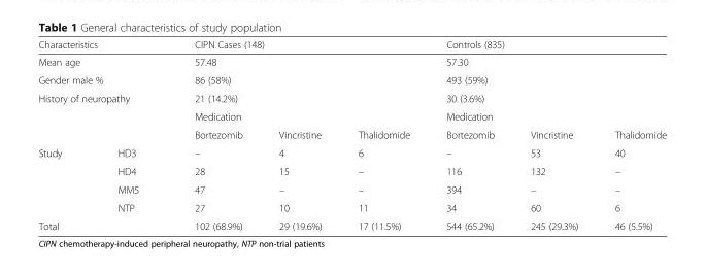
<table><thead><tr><td colspan="2">Characteristics</td><td colspan="3">CIPN Cases (148)</td><td colspan="3">Controls (835)</td></tr></thead><tbody><tr><td colspan="2">Mean age</td><td colspan="3">57.48</td><td colspan="3">57.30</td></tr><tr><td colspan="2">Gender male %</td><td colspan="3">86 (58%)</td><td colspan="3">493 (59%)</td></tr><tr><td rowspan="3" colspan="2">History of neuropathy</td><td colspan="3">21 (14.2%)</td><td colspan="3">30 (3.6%)</td></tr><tr><td colspan="3">Medication</td><td colspan="3">Medication</td></tr><tr><td>Bortezomib</td><td>Vincristine</td><td>Thalidomide</td><td>Bortezomib</td><td>Vincristine</td><td>Thalidomide</td></tr><tr><td rowspan="4">Study</td><td>HD3</td><td>–</td><td>4</td><td>6</td><td>–</td><td>53</td><td>40</td></tr><tr><td>HD4</td><td>28</td><td>15</td><td>–</td><td>116</td><td>132</td><td>–</td></tr><tr><td>MM5</td><td>47</td><td>–</td><td>–</td><td>394</td><td>–</td><td>–</td></tr><tr><td>NTP</td><td>27</td><td>10</td><td>11</td><td>34</td><td>60</td><td>6</td></tr><tr><td colspan="2">Total</td><td>102 (68.9%)</td><td>29 (19.6%)</td><td>17 (11.5%)</td><td>544 (65.2%)</td><td>245 (29.3%)</td><td>46 (5.5%)</td></tr></tbody></table>